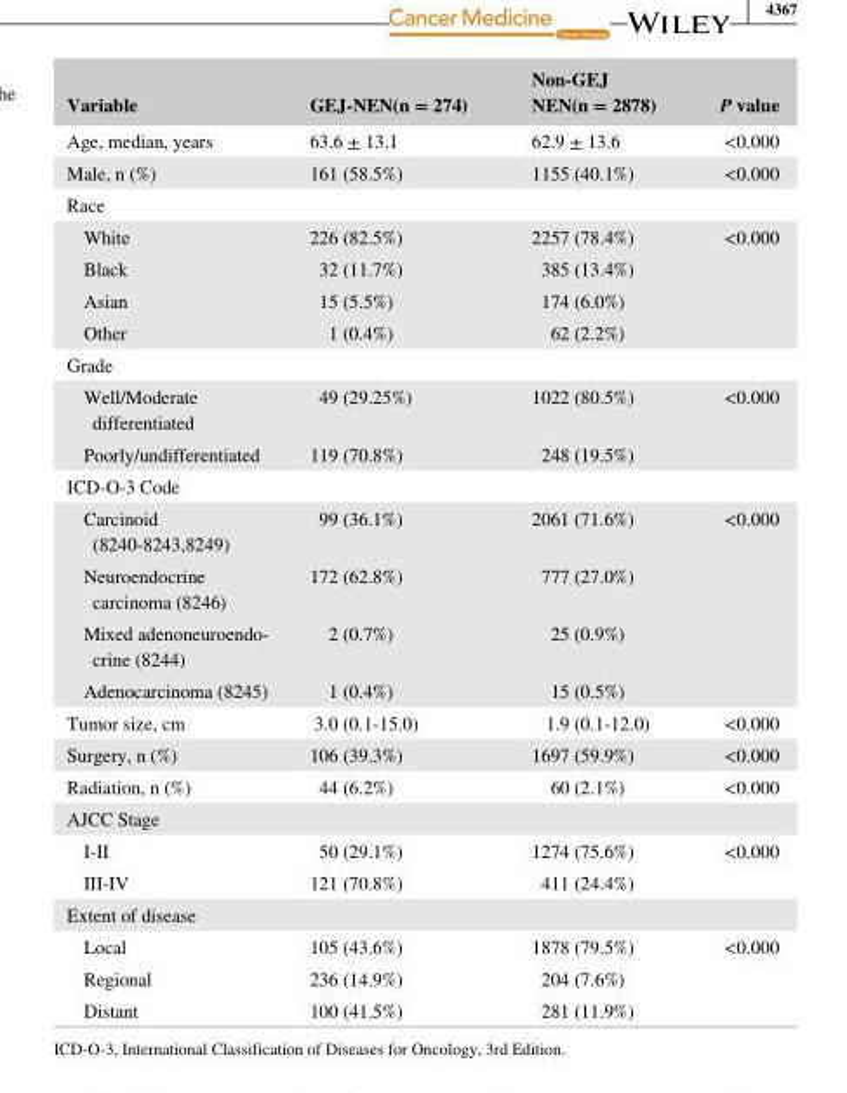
<table><thead><tr><td>Variable</td><td>GEJ- NEN(n = 274)</td><td>Non- GEJ NEN(n = 2878)</td><td>P value</td></tr></thead><tbody><tr><td>Age, median, years</td><td>63.6 ± 13.1</td><td>62.9 ± 13.6</td><td>&lt;0.000</td></tr><tr><td>Male, n (%)</td><td>161 (58.5%)</td><td>1155 (40.1%)</td><td>&lt;0.000</td></tr><tr><td colspan="4">Race</td></tr><tr><td>White</td><td>226 (82.5%)</td><td>2257 (78.4%)</td><td rowspan="4">&lt;0.000</td></tr><tr><td>Black</td><td>32 (11.7%)</td><td>385 (13.4%)</td></tr><tr><td>Asian</td><td>15 (5.5%)</td><td>174 (6.0%)</td></tr><tr><td>Other</td><td>1 (0.4%)</td><td>62 (2.2%)</td></tr><tr><td colspan="4">Grade</td></tr><tr><td>Well/Moderate differentiated</td><td>49 (29.25%)</td><td>1022 (80.5%)</td><td rowspan="2">&lt;0.000</td></tr><tr><td>Poorly/undifferentiated</td><td>119 (70.8%)</td><td>248 (19.5%)</td></tr><tr><td colspan="4">ICD- O- 3 Code</td></tr><tr><td>Carcinoid (8240- 8243,8249)</td><td>99 (36.1%)</td><td>2061 (71.6%)</td><td rowspan="4">&lt;0.000</td></tr><tr><td>Neuroendocrine carcinoma (8246)</td><td>172 (62.8%)</td><td>777 (27.0%)</td></tr><tr><td>Mixed adenoneuroendo- crine (8244)</td><td>2 (0.7%)</td><td>25 (0.9%)</td></tr><tr><td>Adenocarcinoma (8245)</td><td>1 (0.4%)</td><td>15 (0.5%)</td></tr><tr><td>Tumor size, cm</td><td>3.0 (0.1- 15.0)</td><td>1.9 (0.1- 12.0)</td><td>&lt;0.000</td></tr><tr><td>Surgery, n (%)</td><td>106 (39.3%)</td><td>1697 (59.9%)</td><td>&lt;0.000</td></tr><tr><td>Radiation, n (%)</td><td>44 (6.2%)</td><td>60 (2.1%)</td><td>&lt;0.000</td></tr><tr><td colspan="4">AJCC Stage</td></tr><tr><td>I- II</td><td>50 (29.1%)</td><td>1274 (75.6%)</td><td rowspan="2">&lt;0.000</td></tr><tr><td>III- IV</td><td>121 (70.8%)</td><td>411 (24.4%)</td></tr><tr><td colspan="4">Extent of disease</td></tr><tr><td>Local</td><td>105 (43.6%)</td><td>1878 (79.5%)</td><td rowspan="3">&lt;0.000</td></tr><tr><td>Regional</td><td>236 (14.9%)</td><td>204 (7.6%)</td></tr><tr><td>Distant</td><td>100 (41.5%)</td><td>281 (11.9%)</td></tr></tbody></table>